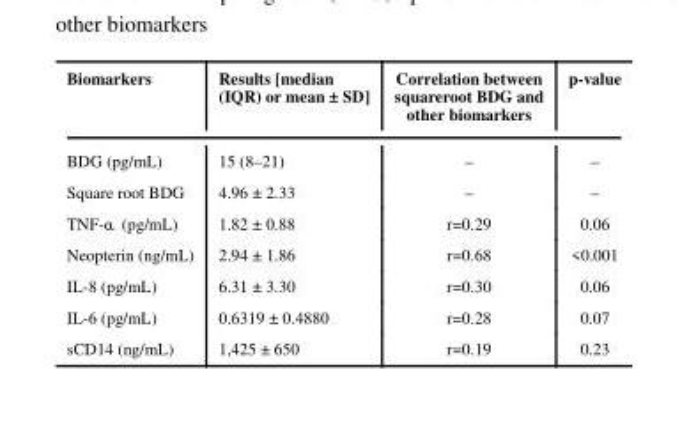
<table><thead><tr><td>Biomarkers</td><td>Results [median (IQR) or mean ± SD]</td><td>Correlation between squareroot BDG and other biomarkers</td><td>p-value</td></tr></thead><tbody><tr><td>BDG (pg/mL)</td><td>15 (8–21)</td><td>–</td><td>–</td></tr><tr><td>Square root BDG</td><td>4.96 ± 2.33</td><td>–</td><td>–</td></tr><tr><td>TNF-α (pg/mL)</td><td>1.82 ± 0.88</td><td>r=0.29</td><td>0.06</td></tr><tr><td>Neopterin (ng/mL)</td><td>2.94 ± 1.86</td><td>r=0.68</td><td>&lt;0.001</td></tr><tr><td>IL-8 (pg/mL)</td><td>6.31 ± 3.30</td><td>r=0.30</td><td>0.06</td></tr><tr><td>IL-6 (pg/mL)</td><td>0.6319 ± 0.4880</td><td>r=0.28</td><td>0.07</td></tr><tr><td>sCD14 (ng/mL)</td><td>1,425 ± 650</td><td>r=0.19</td><td>0.23</td></tr></tbody></table>